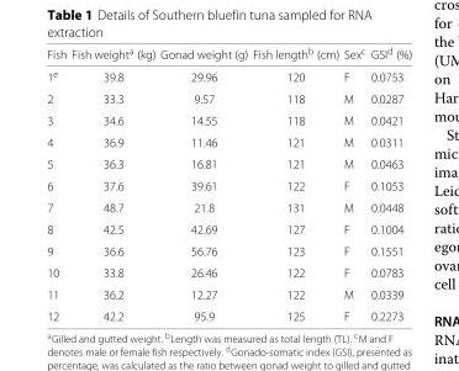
<table><thead><tr><td>Fish</td><td>Fish weight<sup>a</sup> (kg)</td><td>Gonad weight (g)</td><td>Fish length<sup>b</sup> (cm)</td><td>Sex<sup>c</sup></td><td>GSI<sup>d</sup> (%)</td></tr></thead><tbody><tr><td>1<sup>e</sup></td><td>39.8</td><td>29.96</td><td>120</td><td>F</td><td>0.0753</td></tr><tr><td>2</td><td>33.3</td><td>9.57</td><td>118</td><td>M</td><td>0.0287</td></tr><tr><td>3</td><td>34.6</td><td>14.55</td><td>118</td><td>M</td><td>0.0421</td></tr><tr><td>4</td><td>36.9</td><td>11.46</td><td>121</td><td>M</td><td>0.0311</td></tr><tr><td>5</td><td>36.3</td><td>16.81</td><td>121</td><td>M</td><td>0.0463</td></tr><tr><td>6</td><td>37.6</td><td>39.61</td><td>122</td><td>F</td><td>0.1053</td></tr><tr><td>7</td><td>48.7</td><td>21.8</td><td>131</td><td>M</td><td>0.0448</td></tr><tr><td>8</td><td>42.5</td><td>42.69</td><td>127</td><td>F</td><td>0.1004</td></tr><tr><td>9</td><td>36.6</td><td>56.76</td><td>123</td><td>F</td><td>0.1551</td></tr><tr><td>10</td><td>33.8</td><td>26.46</td><td>122</td><td>F</td><td>0.0783</td></tr><tr><td>11</td><td>36.2</td><td>12.27</td><td>122</td><td>M</td><td>0.0339</td></tr><tr><td>12</td><td>42.2</td><td>95.9</td><td>125</td><td>F</td><td>0.2273</td></tr></tbody></table>